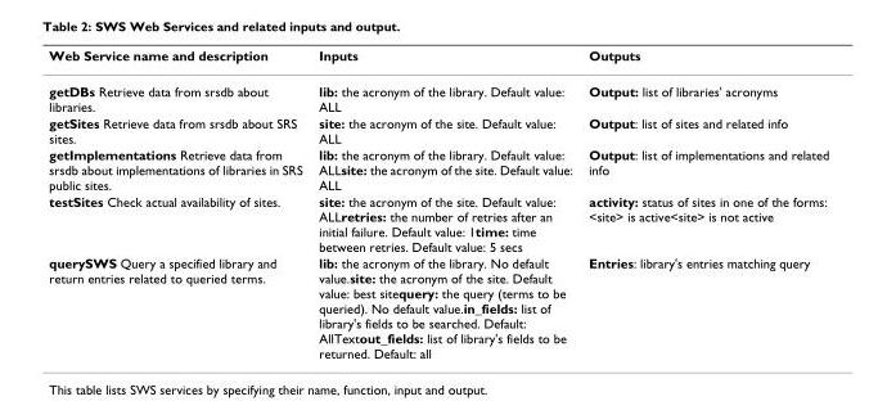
<table><thead><tr><td>Web Service name and description</td><td>Inputs</td><td>Outputs</td></tr></thead><tbody><tr><td>getDBs Retrieve data from srsdb about libraries.</td><td>lib: the acronym of the library. Default value: ALL</td><td>Output: list of libraries&#x27; acronyms</td></tr><tr><td>getSites Retrieve data from srsdb about SRS sites.</td><td>site: the acronym of the site. Default value: ALL</td><td>Output: list of sites and related info</td></tr><tr><td>getImplementations Retrieve data from srsdb about implementations of libraries in SRS public sites.</td><td>lib: the acronym of the library. Default value: ALLsite: the acronym of the site. Default value: ALL</td><td>Output: list of implementations and related info</td></tr><tr><td>testSites Check actual availability of sites.</td><td>site: the acronym of the site. Default value: ALLretries: the number of retries after an initial failure. Default value: 1time: time between retries. Default value: 5 secs</td><td>activity: status of sites in one of the forms: &lt;site&gt; is active&lt;site&gt; is not active</td></tr><tr><td>querySWS Query a specified library and return entries related to queried terms.</td><td>lib: the acronym of the library. No default value.site: the acronym of the site. Default value: best sitequery: the query (terms to be queried). No default value.in_fields: list of library&#x27;s fields to be searched. Default: AllTextout_fields: list of library&#x27;s fields to be returned. Default: all</td><td>Entries: library&#x27;s entries matching query</td></tr></tbody></table>